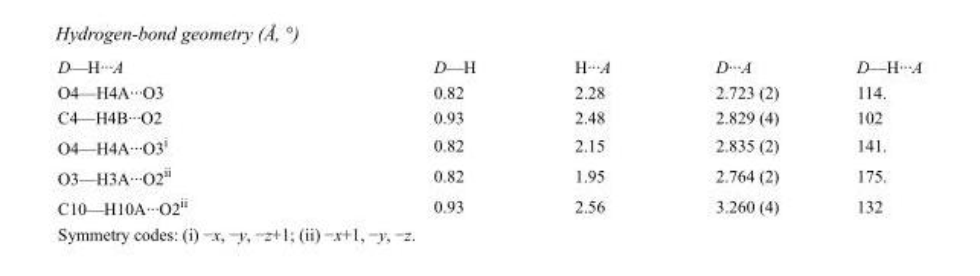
<table><tbody><tr><td>D—H···A</td><td>D—H</td><td>H···A</td><td>D···A</td><td>D—H···A</td></tr><tr><td>O4—H4A···O3</td><td>0.82</td><td>2.28</td><td>2.723 (2)</td><td>114.</td></tr><tr><td>C4—H4B···O2</td><td>0.93</td><td>2.48</td><td>2.829 (4)</td><td>102</td></tr><tr><td>O4—H4A···O3<sup>i</sup></td><td>0.82</td><td>2.15</td><td>2.835 (2)</td><td>141.</td></tr><tr><td>O3—H3A···O2<sup>ii</sup></td><td>0.82</td><td>1.95</td><td>2.764 (2)</td><td>175.</td></tr><tr><td>C10—H10A···O2<sup>ii</sup></td><td>0.93</td><td>2.56</td><td>3.260 (4)</td><td>132</td></tr></tbody></table>